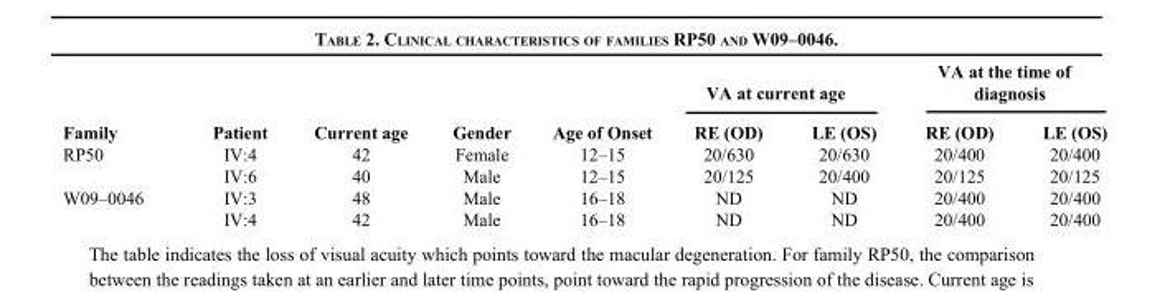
<table><thead><tr><td rowspan="2">Family</td><td rowspan="2">Patient</td><td rowspan="2">Current age</td><td rowspan="2">Gender</td><td rowspan="2">Age of Onset</td><td colspan="2">VA at current age</td><td colspan="2">VA at the time of diagnosis</td></tr><tr><td>RE (OD)</td><td>LE (OS)</td><td>RE (OD)</td><td>LE (OS)</td></tr></thead><tbody><tr><td rowspan="2">RP50</td><td>IV:4</td><td>42</td><td>Female</td><td>12–15</td><td>20/630</td><td>20/630</td><td>20/400</td><td>20/400</td></tr><tr><td>IV:6</td><td>40</td><td>Male</td><td>12–15</td><td>20/125</td><td>20/400</td><td>20/125</td><td>20/125</td></tr><tr><td rowspan="2">W09–0046</td><td>IV:3</td><td>48</td><td>Male</td><td>16–18</td><td>ND</td><td>ND</td><td>20/400</td><td>20/400</td></tr><tr><td>IV:4</td><td>42</td><td>Male</td><td>16–18</td><td>ND</td><td>ND</td><td>20/400</td><td>20/400</td></tr></tbody></table>